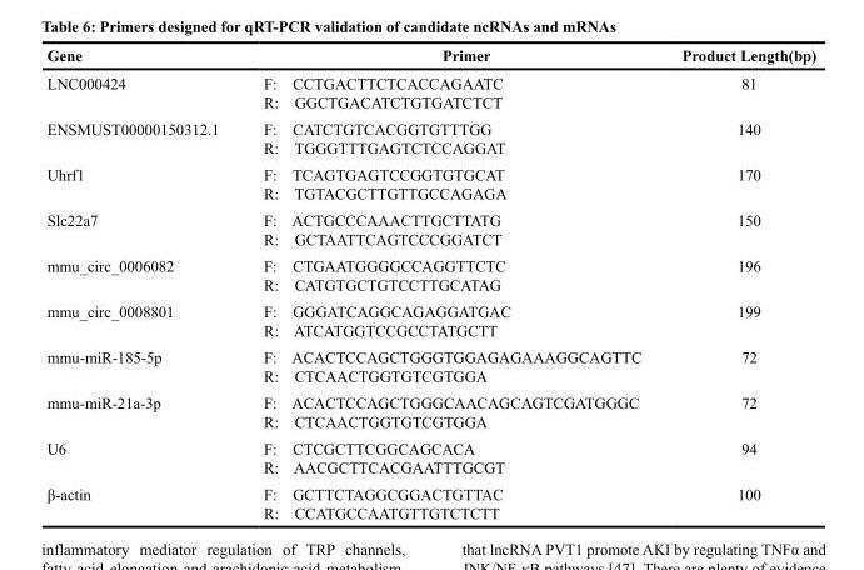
<table><thead><tr><td>Gene</td><td>Primer</td><td>Product Length(bp)</td></tr></thead><tbody><tr><td>LNC000424</td><td>F: CCTGACTTCTCACCAGAATC R: GGCTGACATCTGTGATCTCT</td><td>81</td></tr><tr><td>ENSMUST00000150312.1</td><td>F: CATCTGTCACGGTGTTTGG R: TGGGTTTGAGTCTCCAGGAT</td><td>140</td></tr><tr><td>Uhrf1</td><td>F: TCAGTGAGTCCGGTGTGCAT R: TGTACGCTTGTTGCCAGAGA</td><td>170</td></tr><tr><td>Slc22a7</td><td>F: ACTGCCCAAACTTGCTTATG R: GCTAATTCAGTCCCGGATCT</td><td>150</td></tr><tr><td>mmu_circ_0006082</td><td>F: CTGAATGGGGCCAGGTTCTC R: CATGTGCTGTCCTTGCATAG</td><td>196</td></tr><tr><td>mmu_circ_0008801</td><td>F: GGGATCAGGCAGAGGATGAC R: ATCATGGTCCGCCTATGCTT</td><td>199</td></tr><tr><td>mmu-miR-185-5p</td><td>F: ACACTCCAGCTGGGTGGAGAGAAAGGCAGTTC R: CTCAACTGGTGTCGTGGA</td><td>72</td></tr><tr><td>mmu-miR-21a-3p</td><td>F: ACACTCCAGCTGGGCAACAGCAGTCGATGGGC R: CTCAACTGGTGTCGTGGA</td><td>72</td></tr><tr><td>U6</td><td>F: CTCGCTTCGGCAGCACA R: AACGCTTCACGAATTTGCGT</td><td>94</td></tr><tr><td>β-actin</td><td>F: GCTTCTAGGCGGACTGTTAC R: CCATGCCAATGTTGTCTCTT</td><td>100</td></tr></tbody></table>